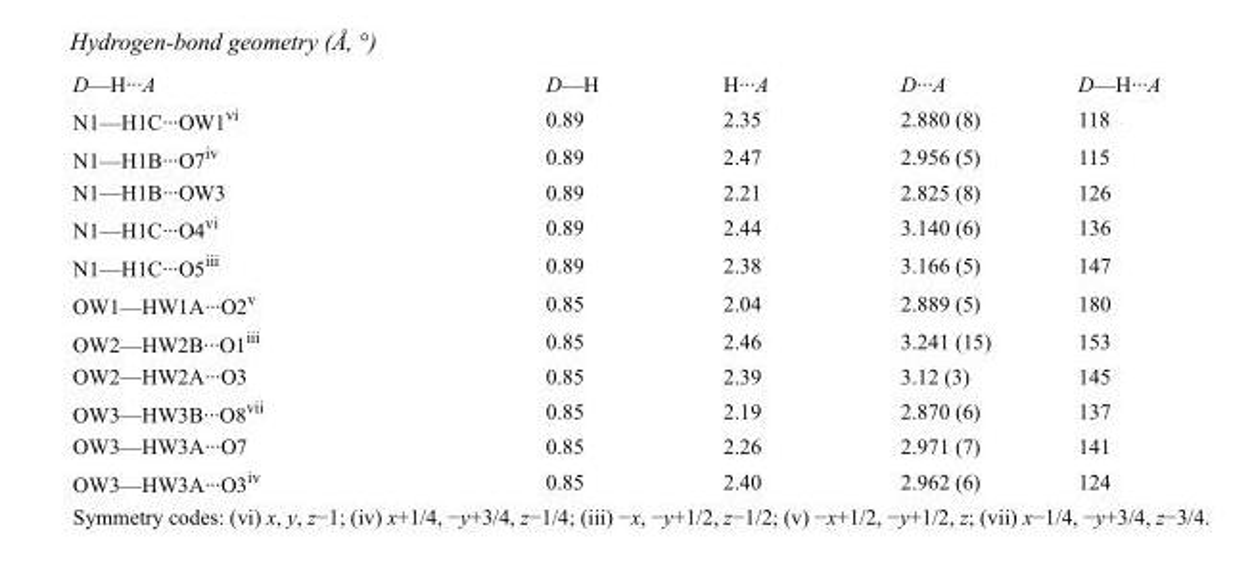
<table><tbody><tr><td>D—H···A</td><td>D—H</td><td>H···A</td><td>D···A</td><td>D—H···A</td></tr><tr><td>N1—H1C···OW1<sup>vi</sup></td><td>0.89</td><td>2.35</td><td>2.880 (8)</td><td>118</td></tr><tr><td>N1—H1B···O7<sup>iv</sup></td><td>0.89</td><td>2.47</td><td>2.956 (5)</td><td>115</td></tr><tr><td>N1—H1B···OW3</td><td>0.89</td><td>2.21</td><td>2.825 (8)</td><td>126</td></tr><tr><td>N1—H1C···O4<sup>vi</sup></td><td>0.89</td><td>2.44</td><td>3.140 (6)</td><td>136</td></tr><tr><td>N1—H1C···O5<sup>iii</sup></td><td>0.89</td><td>2.38</td><td>3.166 (5)</td><td>147</td></tr><tr><td>OW1—HW1A···O2<sup>v</sup></td><td>0.85</td><td>2.04</td><td>2.889 (5)</td><td>180</td></tr><tr><td>OW2—HW2B···O1<sup>iii</sup></td><td>0.85</td><td>2.46</td><td>3.241 (15)</td><td>153</td></tr><tr><td>OW2—HW2A···O3</td><td>0.85</td><td>2.39</td><td>3.12 (3)</td><td>145</td></tr><tr><td>OW3—HW3B···O8<sup>vii</sup></td><td>0.85</td><td>2.19</td><td>2.870 (6)</td><td>137</td></tr><tr><td>OW3—HW3A···O7</td><td>0.85</td><td>2.26</td><td>2.971 (7)</td><td>141</td></tr><tr><td>OW3—HW3A···O3<sup>iv</sup></td><td>0.85</td><td>2.40</td><td>2.962 (6)</td><td>124</td></tr></tbody></table>